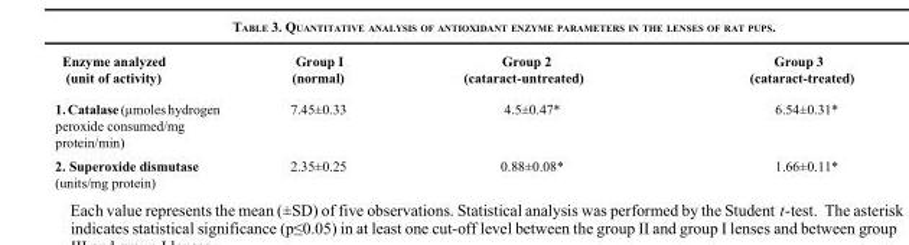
<table><thead><tr><td>Enzyme analyzed (unit of activity)</td><td>Group I (normal)</td><td>Group 2 (cataract-untreated)</td><td>Group 3 (cataract-treated)</td></tr></thead><tbody><tr><td>1. Catalase (μmoles hydrogen peroxide consumed/mg protein/min)</td><td>7.45±0.33</td><td>4.5±0.47*</td><td>6.54±0.31*</td></tr><tr><td>2. Superoxide dismutase (units/mg protein)</td><td>2.35±0.25</td><td>0.88±0.08*</td><td>1.66±0.11*</td></tr></tbody></table>